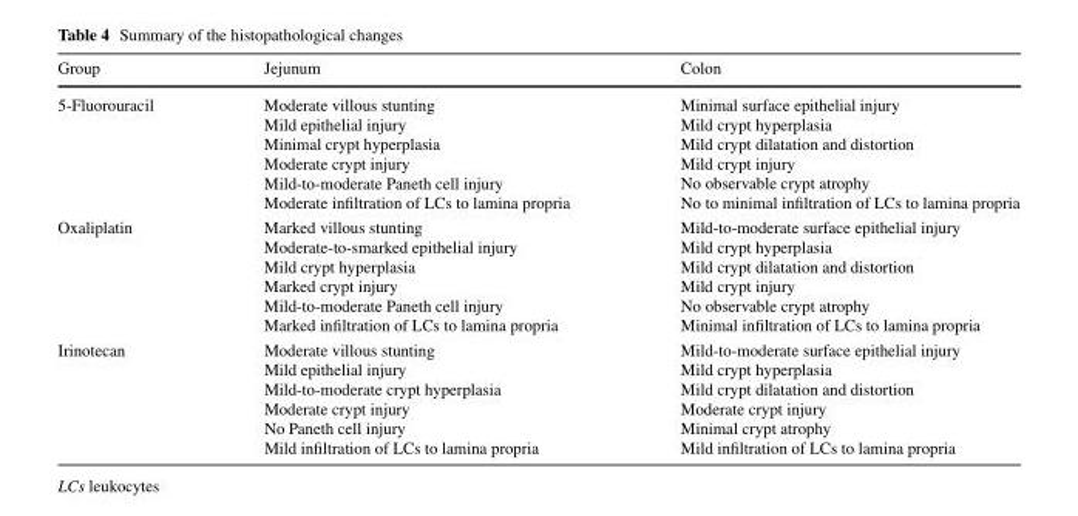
<table><thead><tr><td>Group</td><td>Jejunum</td><td>Colon</td></tr></thead><tbody><tr><td>5-Fluorouracil</td><td>Moderate villous stunting Mild epithelial injury Minimal crypt hyperplasia Moderate crypt injury Mild-to-moderate Paneth cell injury Moderate infiltration of LCs to lamina propria</td><td>Minimal surface epithelial injury Mild crypt hyperplasia Mild crypt dilatation and distortion Mild crypt injury No observable crypt atrophy No to minimal infiltration of LCs to lamina propria</td></tr><tr><td>Oxaliplatin</td><td>Marked villous stunting Moderate-to-smarked epithelial injury Mild crypt hyperplasia Marked crypt injury Mild-to-moderate Paneth cell injury Marked infiltration of LCs to lamina propria</td><td>Mild-to-moderate surface epithelial injury Mild crypt hyperplasia Mild crypt dilatation and distortion Mild crypt injury No observable crypt atrophy Minimal infiltration of LCs to lamina propria</td></tr><tr><td>Irinotecan</td><td>Moderate villous stunting Mild epithelial injury Mild-to-moderate crypt hyperplasia Moderate crypt injury No Paneth cell injury Mild infiltration of LCs to lamina propria</td><td>Mild-to-moderate surface epithelial injury Mild crypt hyperplasia Mild crypt dilatation and distortion Moderate crypt injury Minimal crypt atrophy Mild infiltration of LCs to lamina propria</td></tr></tbody></table>